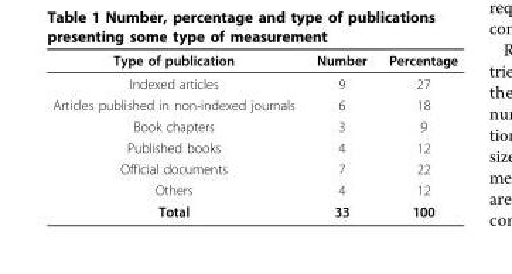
<table><thead><tr><td>Type of publication</td><td>Number</td><td>Percentage</td></tr></thead><tbody><tr><td>Indexed articles</td><td>9</td><td>27</td></tr><tr><td>Articles published in non-indexed journals</td><td>6</td><td>18</td></tr><tr><td>Book chapters</td><td>3</td><td>9</td></tr><tr><td>Published books</td><td>4</td><td>12</td></tr><tr><td>Official documents</td><td>7</td><td>22</td></tr><tr><td>Others</td><td>4</td><td>12</td></tr><tr><td>Total</td><td>33</td><td>100</td></tr></tbody></table>